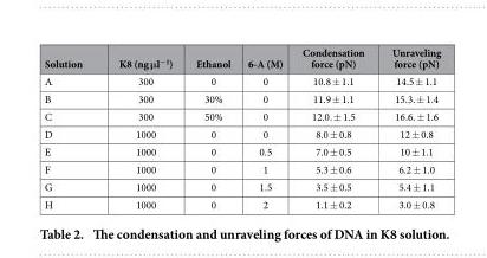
<table><thead><tr><td>Solution</td><td>K8 (ng μl<sup>−1</sup>)</td><td>Ethanol</td><td>6-A (M)</td><td>Condensation force (pN)</td><td>Unraveling force (pN)</td></tr></thead><tbody><tr><td>A</td><td>300</td><td>0</td><td>0</td><td>10.8 ± 1.1</td><td>14.5 ± 1.1</td></tr><tr><td>B</td><td>300</td><td>30%</td><td>0</td><td>11.9 ± 1.1</td><td>15.3. ± 1.4</td></tr><tr><td>C</td><td>300</td><td>50%</td><td>0</td><td>12.0. ± 1.5</td><td>16.6. ± 1.6</td></tr><tr><td>D</td><td>1000</td><td>0</td><td>0</td><td>8.0 ± 0.8</td><td>12 ± 0.8</td></tr><tr><td>E</td><td>1000</td><td>0</td><td>0.5</td><td>7.0 ± 0.5</td><td>10 ± 1.1</td></tr><tr><td>F</td><td>1000</td><td>0</td><td>1</td><td>5.3 ± 0.6</td><td>6.2 ± 1.0</td></tr><tr><td>G</td><td>1000</td><td>0</td><td>1.5</td><td>3.5 ± 0.5</td><td>5.4 ± 1.1</td></tr><tr><td>H</td><td>1000</td><td>0</td><td>2</td><td>1.1 ± 0.2</td><td>3.0 ± 0.8</td></tr></tbody></table>